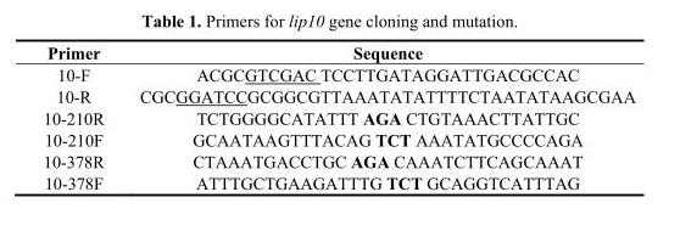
<table><thead><tr><td>Primer</td><td>Sequence</td></tr></thead><tbody><tr><td>10-F</td><td>ACGCGTCGAC TCCTTGATAGGATTGACGCCAC</td></tr><tr><td>10-R</td><td>CGCGGATCCGCGGCGTTAAATATATTTTCTAATATAAGCGAA</td></tr><tr><td>10-210R</td><td>TCTGGGGCATATTT AGA CTGTAAACTTATTGC</td></tr><tr><td>10-210F</td><td>GCAATAAGTTTACAG TCT AAATATGCCCCAGA</td></tr><tr><td>10-378R</td><td>CTAAATGACCTGC AGA CAAATCTTCAGCAAAT</td></tr><tr><td>10-378F</td><td>ATTTGCTGAAGATTTG TCT GCAGGTCATTTAG</td></tr></tbody></table>